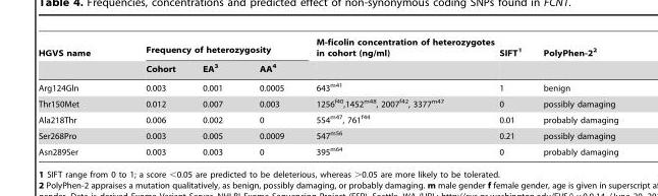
<table><thead><tr><td rowspan="2">HGVS name</td><td colspan="3">Frequency of heterozygosity</td><td rowspan="2">M-ficolin concentration of heterozygotes in cohort (ng/ml)</td><td rowspan="2">SIFT<sup>1</sup></td><td rowspan="2">PolyPhen-2<sup>2</sup></td></tr><tr><td>Cohort</td><td>EA<sup>3</sup></td><td>AA<sup>4</sup></td></tr></thead><tbody><tr><td>Arg124Gln</td><td>0.003</td><td>0.001</td><td>0.0005</td><td>643<sup>m41</sup></td><td>1</td><td>benign</td></tr><tr><td>Thr150Met</td><td>0.012</td><td>0.007</td><td>0.003</td><td>1256<sup>f40</sup>,1452<sup>m48</sup>, 2007<sup>f42</sup>, 3377<sup>m47</sup></td><td>0</td><td>possibly damaging</td></tr><tr><td>Ala218Thr</td><td>0.006</td><td>0.002</td><td>0</td><td>554<sup>m47</sup>, 761<sup>f44</sup></td><td>0.01</td><td>probably damaging</td></tr><tr><td>Ser268Pro</td><td>0.003</td><td>0.005</td><td>0.0009</td><td>547<sup>m56</sup></td><td>0.21</td><td>possibly damaging</td></tr><tr><td>Asn289Ser</td><td>0.003</td><td>0.003</td><td>0</td><td>395<sup>m64</sup></td><td>0</td><td>probably damaging</td></tr></tbody></table>